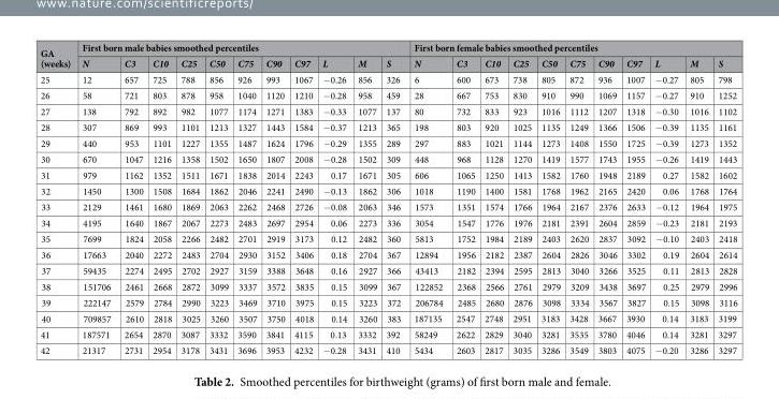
<table><thead><tr><td rowspan="2">GA (weeks)</td><td colspan="11">First born male babies smoothed percentiles</td><td colspan="11">First born female babies smoothed percentiles</td></tr><tr><td>N</td><td>C3</td><td>C10</td><td>C25</td><td>C50</td><td>C75</td><td>C90</td><td>C97</td><td>L</td><td>M</td><td>S</td><td>N</td><td>C3</td><td>C10</td><td>C25</td><td>C50</td><td>C75</td><td>C90</td><td>C97</td><td>L</td><td>M</td><td>S</td></tr></thead><tbody><tr><td>25</td><td>12</td><td>657</td><td>725</td><td>788</td><td>856</td><td>926</td><td>993</td><td>1067</td><td>−0.26</td><td>856</td><td>326</td><td>6</td><td>600</td><td>673</td><td>738</td><td>805</td><td>872</td><td>936</td><td>1007</td><td>−0.27</td><td>805</td><td>798</td></tr><tr><td>26</td><td>58</td><td>721</td><td>803</td><td>878</td><td>958</td><td>1040</td><td>1120</td><td>1210</td><td>−0.28</td><td>958</td><td>459</td><td>28</td><td>667</td><td>753</td><td>830</td><td>910</td><td>990</td><td>1069</td><td>1157</td><td>−0.27</td><td>910</td><td>1252</td></tr><tr><td>27</td><td>138</td><td>792</td><td>892</td><td>982</td><td>1077</td><td>1174</td><td>1271</td><td>1383</td><td>−0.33</td><td>1077</td><td>137</td><td>80</td><td>732</td><td>833</td><td>923</td><td>1016</td><td>1112</td><td>1207</td><td>1318</td><td>−0.30</td><td>1016</td><td>1102</td></tr><tr><td>28</td><td>307</td><td>869</td><td>993</td><td>1101</td><td>1213</td><td>1327</td><td>1443</td><td>1584</td><td>−0.37</td><td>1213</td><td>365</td><td>198</td><td>803</td><td>920</td><td>1025</td><td>1135</td><td>1249</td><td>1366</td><td>1506</td><td>−0.39</td><td>1135</td><td>1161</td></tr><tr><td>29</td><td>440</td><td>953</td><td>1101</td><td>1227</td><td>1355</td><td>1487</td><td>1624</td><td>1796</td><td>−0.29</td><td>1355</td><td>289</td><td>297</td><td>883</td><td>1021</td><td>1144</td><td>1273</td><td>1408</td><td>1550</td><td>1725</td><td>−0.39</td><td>1273</td><td>1352</td></tr><tr><td>30</td><td>670</td><td>1047</td><td>1216</td><td>1358</td><td>1502</td><td>1650</td><td>1807</td><td>2008</td><td>−0.28</td><td>1502</td><td>309</td><td>448</td><td>968</td><td>1128</td><td>1270</td><td>1419</td><td>1577</td><td>1743</td><td>1955</td><td>−0.26</td><td>1419</td><td>1443</td></tr><tr><td>31</td><td>979</td><td>1162</td><td>1352</td><td>1511</td><td>1671</td><td>1838</td><td>2014</td><td>2243</td><td>0.17</td><td>1671</td><td>305</td><td>606</td><td>1065</td><td>1250</td><td>1413</td><td>1582</td><td>1760</td><td>1948</td><td>2189</td><td>0.27</td><td>1582</td><td>1602</td></tr><tr><td>32</td><td>1450</td><td>1300</td><td>1508</td><td>1684</td><td>1862</td><td>2046</td><td>2241</td><td>2490</td><td>−0.13</td><td>1862</td><td>306</td><td>1018</td><td>1190</td><td>1400</td><td>1581</td><td>1768</td><td>1962</td><td>2165</td><td>2420</td><td>0.06</td><td>1768</td><td>1764</td></tr><tr><td>33</td><td>2129</td><td>1461</td><td>1680</td><td>1869</td><td>2063</td><td>2262</td><td>2468</td><td>2726</td><td>−0.08</td><td>2063</td><td>346</td><td>1573</td><td>1351</td><td>1574</td><td>1766</td><td>1964</td><td>2167</td><td>2376</td><td>2633</td><td>−0.12</td><td>1964</td><td>1975</td></tr><tr><td>34</td><td>4195</td><td>1640</td><td>1867</td><td>2067</td><td>2273</td><td>2483</td><td>2697</td><td>2954</td><td>0.06</td><td>2273</td><td>336</td><td>3054</td><td>1547</td><td>1776</td><td>1976</td><td>2181</td><td>2391</td><td>2604</td><td>2859</td><td>−0.23</td><td>2181</td><td>2193</td></tr><tr><td>35</td><td>7699</td><td>1824</td><td>2058</td><td>2266</td><td>2482</td><td>2701</td><td>2919</td><td>3173</td><td>0.12</td><td>2482</td><td>360</td><td>5813</td><td>1752</td><td>1984</td><td>2189</td><td>2403</td><td>2620</td><td>2837</td><td>3092</td><td>−0.10</td><td>2403</td><td>2418</td></tr><tr><td>36</td><td>17663</td><td>2040</td><td>2272</td><td>2483</td><td>2704</td><td>2930</td><td>3152</td><td>3406</td><td>0.18</td><td>2704</td><td>367</td><td>12894</td><td>1956</td><td>2182</td><td>2387</td><td>2604</td><td>2826</td><td>3046</td><td>3302</td><td>0.19</td><td>2604</td><td>2614</td></tr><tr><td>37</td><td>59435</td><td>2274</td><td>2495</td><td>2702</td><td>2927</td><td>3159</td><td>3388</td><td>3648</td><td>0.16</td><td>2927</td><td>366</td><td>43413</td><td>2182</td><td>2394</td><td>2595</td><td>2813</td><td>3040</td><td>3266</td><td>3525</td><td>0.11</td><td>2813</td><td>2828</td></tr><tr><td>38</td><td>151706</td><td>2461</td><td>2668</td><td>2872</td><td>3099</td><td>3337</td><td>3572</td><td>3835</td><td>0.15</td><td>3099</td><td>367</td><td>122852</td><td>2368</td><td>2566</td><td>2761</td><td>2979</td><td>3209</td><td>3438</td><td>3697</td><td>0.25</td><td>2979</td><td>2996</td></tr><tr><td>39</td><td>222147</td><td>2579</td><td>2784</td><td>2990</td><td>3223</td><td>3469</td><td>3710</td><td>3975</td><td>0.15</td><td>3223</td><td>372</td><td>206784</td><td>2485</td><td>2680</td><td>2876</td><td>3098</td><td>3334</td><td>3567</td><td>3827</td><td>0.15</td><td>3098</td><td>3116</td></tr><tr><td>40</td><td>709857</td><td>2610</td><td>2818</td><td>3025</td><td>3260</td><td>3507</td><td>3750</td><td>4018</td><td>0.14</td><td>3260</td><td>383</td><td>187135</td><td>2547</td><td>2748</td><td>2951</td><td>3183</td><td>3428</td><td>3667</td><td>3930</td><td>0.14</td><td>3183</td><td>3199</td></tr><tr><td>41</td><td>187571</td><td>2654</td><td>2870</td><td>3087</td><td>3332</td><td>3590</td><td>3841</td><td>4115</td><td>0.13</td><td>3332</td><td>392</td><td>58249</td><td>2622</td><td>2829</td><td>3040</td><td>3281</td><td>3535</td><td>3780</td><td>4046</td><td>0.14</td><td>3281</td><td>3297</td></tr><tr><td>42</td><td>21317</td><td>2731</td><td>2954</td><td>3178</td><td>3431</td><td>3696</td><td>3953</td><td>4232</td><td>−0.28</td><td>3431</td><td>410</td><td>5434</td><td>2603</td><td>2817</td><td>3035</td><td>3286</td><td>3549</td><td>3803</td><td>4075</td><td>−0.20</td><td>3286</td><td>3297</td></tr></tbody></table>